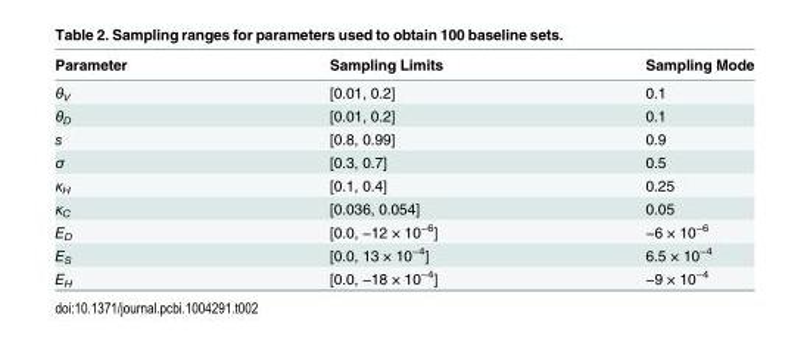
<table><thead><tr><td>Parameter</td><td>Sampling Limits</td><td>Sampling Mode</td></tr></thead><tbody><tr><td>θ<sub>V</sub></td><td>[0.01, 0.2]</td><td>0.1</td></tr><tr><td>θ<sub>D</sub></td><td>[0.01, 0.2]</td><td>0.1</td></tr><tr><td>s</td><td>[0.8, 0.99]</td><td>0.9</td></tr><tr><td>σ</td><td>[0.3, 0.7]</td><td>0.5</td></tr><tr><td>κ<sub>H</sub></td><td>[0.1, 0.4]</td><td>0.25</td></tr><tr><td>κ<sub>C</sub></td><td>[0.036, 0.054]</td><td>0.05</td></tr><tr><td>E<sub>D</sub></td><td>[0.0, −12 × 10<sup>−6</sup>]</td><td>−6 × 10<sup>−6</sup></td></tr><tr><td>E<sub>S</sub></td><td>[0.0, 13 × 10<sup>−4</sup>]</td><td>6.5 × 10<sup>−4</sup></td></tr><tr><td>E<sub>H</sub></td><td>[0.0, −18 × 10<sup>−4</sup>]</td><td>−9 × 10<sup>−4</sup></td></tr></tbody></table>